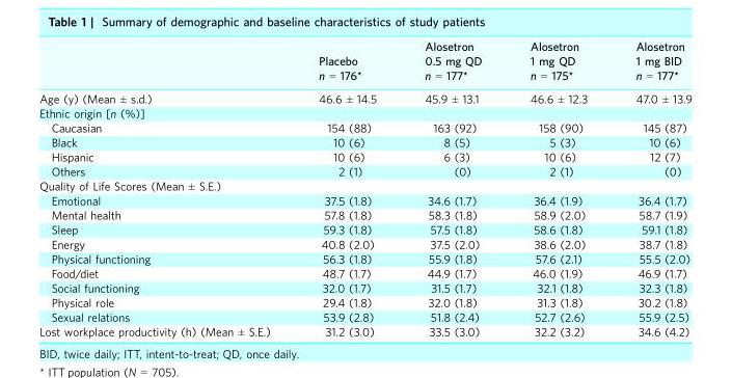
<table><thead><tr><td></td><td>Placebo n = 176*</td><td>Alosetron 0.5 mg QD n = 177*</td><td>Alosetron 1 mg QD n = 175*</td><td>Alosetron 1 mg BID n = 177*</td></tr></thead><tbody><tr><td>Age (y) (Mean ± s.d.)</td><td>46.6 ± 14.5</td><td>45.9 ± 13.1</td><td>46.6 ± 12.3</td><td>47.0 ± 13.9</td></tr><tr><td colspan="5">Ethnic origin [n (%)]</td></tr><tr><td>Caucasian</td><td>154 (88)</td><td>163 (92)</td><td>158 (90)</td><td>145 (87)</td></tr><tr><td>Black</td><td>10 (6)</td><td>8 (5)</td><td>5 (3)</td><td>10 (6)</td></tr><tr><td>Hispanic</td><td>10 (6)</td><td>6 (3)</td><td>10 (6)</td><td>12 (7)</td></tr><tr><td>Others</td><td>2 (1)</td><td>(0)</td><td>2 (1)</td><td>(0)</td></tr><tr><td colspan="5">Quality of Life Scores (Mean ± S.E.)</td></tr><tr><td>Emotional</td><td>37.5 (1.8)</td><td>34.6 (1.7)</td><td>36.4 (1.9)</td><td>36.4 (1.7)</td></tr><tr><td>Mental health</td><td>57.8 (1.8)</td><td>58.3 (1.8)</td><td>58.9 (2.0)</td><td>58.7 (1.9)</td></tr><tr><td>Sleep</td><td>59.3 (1.8)</td><td>57.5 (1.8)</td><td>58.6 (1.8)</td><td>59.1 (1.8)</td></tr><tr><td>Energy</td><td>40.8 (2.0)</td><td>37.5 (2.0)</td><td>38.6 (2.0)</td><td>38.7 (1.8)</td></tr><tr><td>Physical functioning</td><td>56.3 (1.8)</td><td>55.9 (1.8)</td><td>57.6 (2.1)</td><td>55.5 (2.0)</td></tr><tr><td>Food/diet</td><td>48.7 (1.7)</td><td>44.9 (1.7)</td><td>46.0 (1.9)</td><td>46.9 (1.7)</td></tr><tr><td>Social functioning</td><td>32.0 (1.7)</td><td>31.5 (1.7)</td><td>32.1 (1.8)</td><td>32.3 (1.8)</td></tr><tr><td>Physical role</td><td>29.4 (1.8)</td><td>32.0 (1.8)</td><td>31.3 (1.8)</td><td>30.2 (1.8)</td></tr><tr><td>Sexual relations</td><td>53.9 (2.8)</td><td>51.8 (2.4)</td><td>52.7 (2.6)</td><td>55.9 (2.5)</td></tr><tr><td>Lost workplace productivity (h) (Mean ± S.E.)</td><td>31.2 (3.0)</td><td>33.5 (3.0)</td><td>32.2 (3.2)</td><td>34.6 (4.2)</td></tr></tbody></table>